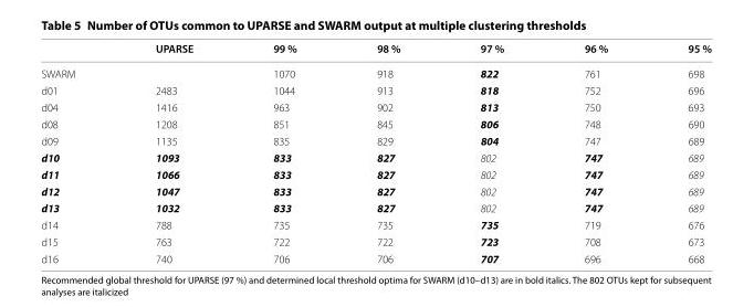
<table><thead><tr><td></td><td>UPARSE</td><td>99 %</td><td>98 %</td><td>97 %</td><td>96 %</td><td>95 %</td></tr></thead><tbody><tr><td>SWARM</td><td></td><td>1070</td><td>918</td><td>822</td><td>761</td><td>698</td></tr><tr><td>d01</td><td>2483</td><td>1044</td><td>913</td><td>818</td><td>752</td><td>696</td></tr><tr><td>d04</td><td>1416</td><td>963</td><td>902</td><td>813</td><td>750</td><td>693</td></tr><tr><td>d08</td><td>1208</td><td>851</td><td>845</td><td>806</td><td>748</td><td>690</td></tr><tr><td>d09</td><td>1135</td><td>835</td><td>829</td><td>804</td><td>747</td><td>689</td></tr><tr><td>d10</td><td>1093</td><td>833</td><td>827</td><td>802</td><td>747</td><td>689</td></tr><tr><td>d11</td><td>1066</td><td>833</td><td>827</td><td>802</td><td>747</td><td>689</td></tr><tr><td>d12</td><td>1047</td><td>833</td><td>827</td><td>802</td><td>747</td><td>689</td></tr><tr><td>d13</td><td>1032</td><td>833</td><td>827</td><td>802</td><td>747</td><td>689</td></tr><tr><td>d14</td><td>788</td><td>735</td><td>735</td><td>735</td><td>719</td><td>676</td></tr><tr><td>d15</td><td>763</td><td>722</td><td>722</td><td>723</td><td>708</td><td>673</td></tr><tr><td>d16</td><td>740</td><td>706</td><td>706</td><td>707</td><td>696</td><td>668</td></tr></tbody></table>